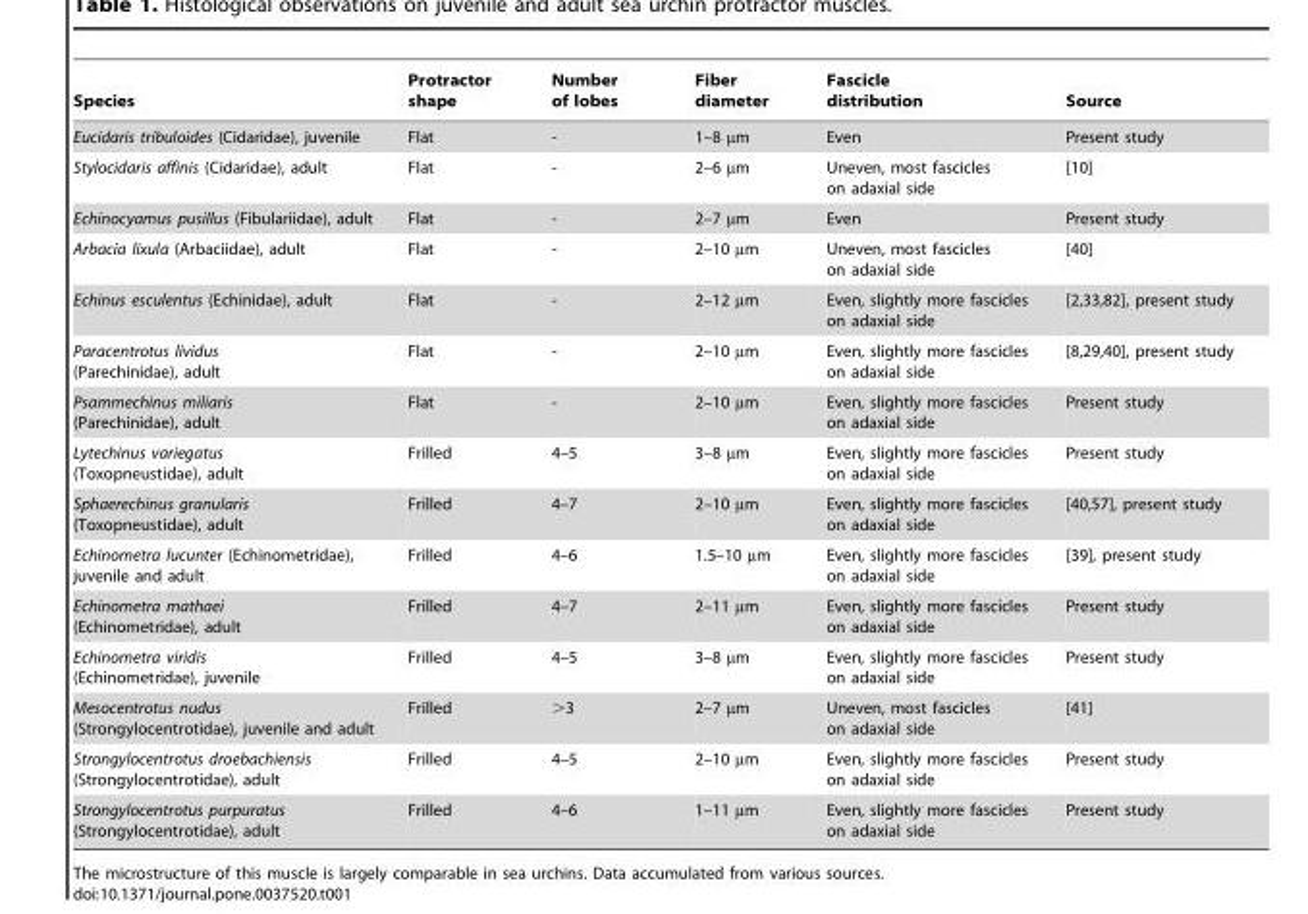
<table><thead><tr><td>Species</td><td>Protractor shape</td><td>Number of lobes</td><td>Fiber diameter</td><td>Fascicle distribution</td><td>Source</td></tr></thead><tbody><tr><td>Eucidaris tribuloides (Cidaridae), juvenile</td><td>Flat</td><td>-</td><td>1–8 µm</td><td>Even</td><td>Present study</td></tr><tr><td>Stylocidaris affinis (Cidaridae), adult</td><td>Flat</td><td>-</td><td>2–6 µm</td><td>Uneven, most fascicles on adaxial side</td><td>[10]</td></tr><tr><td>Echinocyamus pusillus (Fibulariidae), adult</td><td>Flat</td><td>-</td><td>2–7 µm</td><td>Even</td><td>Present study</td></tr><tr><td>Arbacia lixula (Arbaciidae), adult</td><td>Flat</td><td>-</td><td>2–10 µm</td><td>Uneven, most fascicles on adaxial side</td><td>[40]</td></tr><tr><td>Echinus esculentus (Echinidae), adult</td><td>Flat</td><td>-</td><td>2–12 µm</td><td>Even, slightly more fascicles on adaxial side</td><td>[2,33,82], present study</td></tr><tr><td>Paracentrotus lividus (Parechinidae), adult</td><td>Flat</td><td>-</td><td>2–10 µm</td><td>Even, slightly more fascicles on adaxial side</td><td>[8,29,40], present study</td></tr><tr><td>Psammechinus miliaris (Parechinidae), adult</td><td>Flat</td><td>-</td><td>2–10 µm</td><td>Even, slightly more fascicles on adaxial side</td><td>Present study</td></tr><tr><td>Lytechinus variegatus (Toxopneustidae), adult</td><td>Frilled</td><td>4–5</td><td>3–8 µm</td><td>Even, slightly more fascicles on adaxial side</td><td>Present study</td></tr><tr><td>Sphaerechinus granularis (Toxopneustidae), adult</td><td>Frilled</td><td>4–7</td><td>2–10 µm</td><td>Even, slightly more fascicles on adaxial side</td><td>[40,57], present study</td></tr><tr><td>Echinometra lucunter (Echinometridae), juvenile and adult</td><td>Frilled</td><td>4–6</td><td>1.5–10 µm</td><td>Even, slightly more fascicles on adaxial side</td><td>[39], present study</td></tr><tr><td>Echinometra mathaei (Echinometridae), adult</td><td>Frilled</td><td>4–7</td><td>2–11 µm</td><td>Even, slightly more fascicles on adaxial side</td><td>Present study</td></tr><tr><td>Echinometra viridis (Echinometridae), juvenile</td><td>Frilled</td><td>4–5</td><td>3–8 µm</td><td>Even, slightly more fascicles on adaxial side</td><td>Present study</td></tr><tr><td>Mesocentrotus nudus (Strongylocentrotidae), juvenile and adult</td><td>Frilled</td><td>&gt;3</td><td>2–7 µm</td><td>Uneven, most fascicles on adaxial side</td><td>[41]</td></tr><tr><td>Strongylocentrotus droebachiensis (Strongylocentrotidae), adult</td><td>Frilled</td><td>4–5</td><td>2–10 µm</td><td>Even, slightly more fascicles on adaxial side</td><td>Present study</td></tr><tr><td>Strongylocentrotus purpuratus (Strongylocentrotidae), adult</td><td>Frilled</td><td>4–6</td><td>1–11 µm</td><td>Even, slightly more fascicles on adaxial side</td><td>Present study</td></tr></tbody></table>